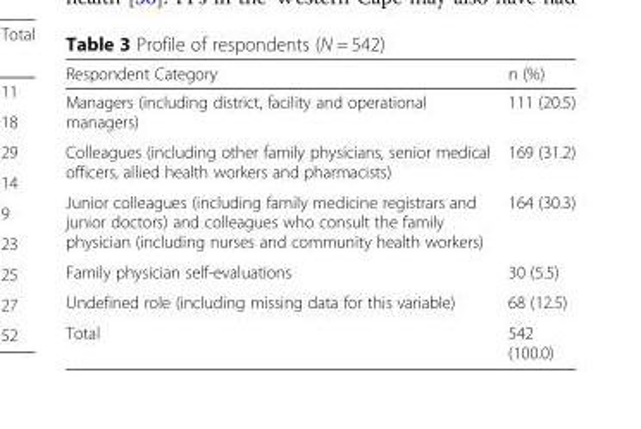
<table><thead><tr><td>Respondent Category</td><td>n (%)</td></tr></thead><tbody><tr><td>Managers (including district, facility and operational managers)</td><td>111 (20.5)</td></tr><tr><td>Colleagues (including other family physicians, senior medical officers, allied health workers and pharmacists)</td><td>169 (31.2)</td></tr><tr><td>Junior colleagues (including family medicine registrars and junior doctors) and colleagues who consult the family physician (including nurses and community health workers)</td><td>164 (30.3)</td></tr><tr><td>Family physician self-evaluations</td><td>30 (5.5)</td></tr><tr><td>Undefined role (including missing data for this variable)</td><td>68 (12.5)</td></tr><tr><td>Total</td><td>542 (100.0)</td></tr></tbody></table>